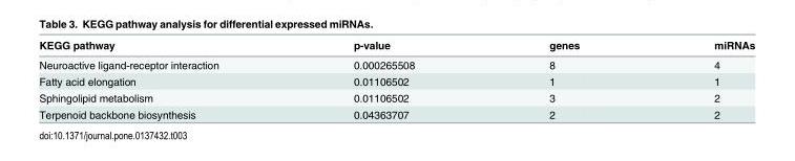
<table><thead><tr><td>KEGG pathway</td><td>p-value</td><td>genes</td><td>miRNAs</td></tr></thead><tbody><tr><td>Neuroactive ligand-receptor interaction</td><td>0.000265508</td><td>8</td><td>4</td></tr><tr><td>Fatty acid elongation</td><td>0.01106502</td><td>1</td><td>1</td></tr><tr><td>Sphingolipid metabolism</td><td>0.01106502</td><td>3</td><td>2</td></tr><tr><td>Terpenoid backbone biosynthesis</td><td>0.04363707</td><td>2</td><td>2</td></tr></tbody></table>